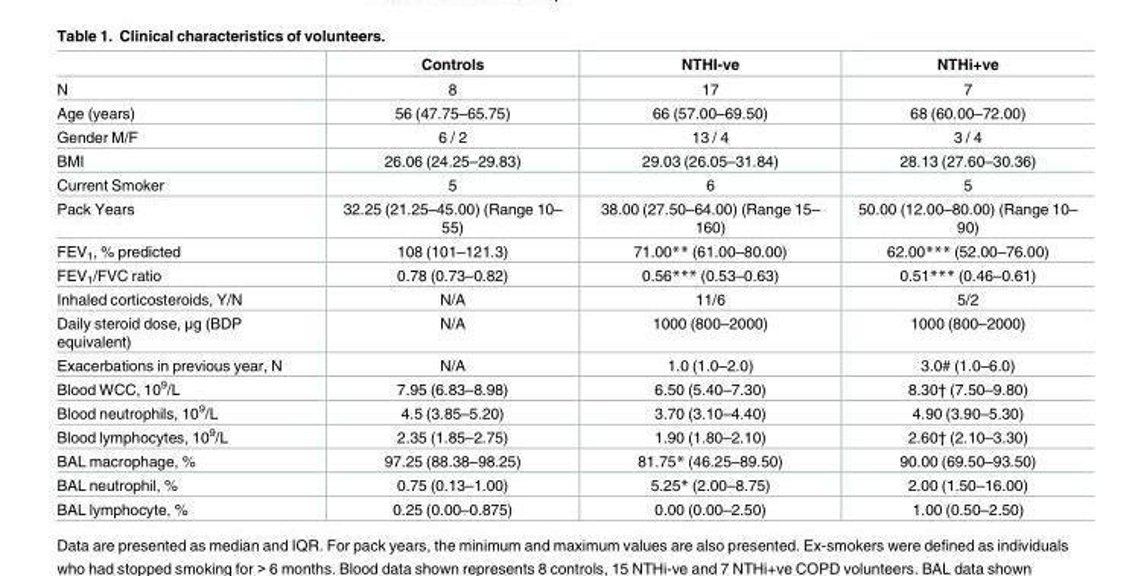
<table><thead><tr><td></td><td>Controls</td><td>NTHI-ve</td><td>NTHi+ve</td></tr></thead><tbody><tr><td>N</td><td>8</td><td>17</td><td>7</td></tr><tr><td>Age (years)</td><td>56 (47.75–65.75)</td><td>66 (57.00–69.50)</td><td>68 (60.00–72.00)</td></tr><tr><td>Gender M/F</td><td>6 / 2</td><td>13 / 4</td><td>3 / 4</td></tr><tr><td>BMI</td><td>26.06 (24.25–29.83)</td><td>29.03 (26.05–31.84)</td><td>28.13 (27.60–30.36)</td></tr><tr><td>Current Smoker</td><td>5</td><td>6</td><td>5</td></tr><tr><td>Pack Years</td><td>32.25 (21.25–45.00) (Range 10– 55)</td><td>38.00 (27.50–64.00) (Range 15– 160)</td><td>50.00 (12.00–80.00) (Range 10– 90)</td></tr><tr><td>FEV<sub>1</sub>, % predicted</td><td>108 (101–121.3)</td><td>71.00** (61.00–80.00)</td><td>62.00*** (52.00–76.00)</td></tr><tr><td>FEV<sub>1</sub>/FVC ratio</td><td>0.78 (0.73–0.82)</td><td>0.56*** (0.53–0.63)</td><td>0.51*** (0.46–0.61)</td></tr><tr><td>Inhaled corticosteroids, Y/N</td><td>N/A</td><td>11/6</td><td>5/2</td></tr><tr><td>Daily steroid dose, μg (BDP equivalent)</td><td>N/A</td><td>1000 (800–2000)</td><td>1000 (800–2000)</td></tr><tr><td>Exacerbations in previous year, N</td><td>N/A</td><td>1.0 (1.0–2.0)</td><td>3.0# (1.0–6.0)</td></tr><tr><td>Blood WCC, 10<sup>9</sup>/L</td><td>7.95 (6.83–8.98)</td><td>6.50 (5.40–7.30)</td><td>8.30† (7.50–9.80)</td></tr><tr><td>Blood neutrophils, 10<sup>9</sup>/L</td><td>4.5 (3.85–5.20)</td><td>3.70 (3.10–4.40)</td><td>4.90 (3.90–5.30)</td></tr><tr><td>Blood lymphocytes, 10<sup>9</sup>/L</td><td>2.35 (1.85–2.75)</td><td>1.90 (1.80–2.10)</td><td>2.60† (2.10–3.30)</td></tr><tr><td>BAL macrophage, %</td><td>97.25 (88.38–98.25)</td><td>81.75* (46.25–89.50)</td><td>90.00 (69.50–93.50)</td></tr><tr><td>BAL neutrophil, %</td><td>0.75 (0.13–1.00)</td><td>5.25* (2.00–8.75)</td><td>2.00 (1.50–16.00)</td></tr><tr><td>BAL lymphocyte, %</td><td>0.25 (0.00–0.875)</td><td>0.00 (0.00–2.50)</td><td>1.00 (0.50–2.50)</td></tr></tbody></table>